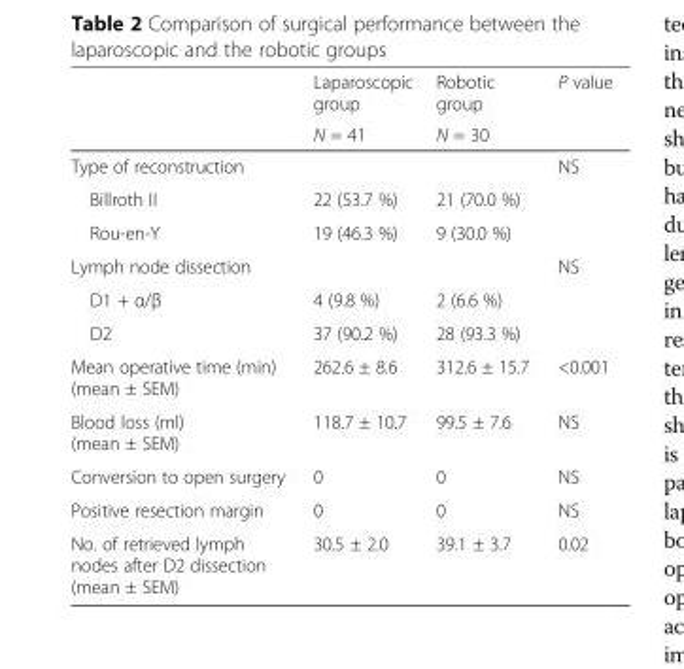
<table><thead><tr><td rowspan="2"></td><td rowspan="2">Laparoscopic group N = 41</td><td rowspan="2">Robotic group N = 30</td><td rowspan="2">P value</td></tr><tr></tr></thead><tbody><tr><td>Type of reconstruction</td><td></td><td></td><td>NS</td></tr><tr><td>Billroth II</td><td>22 (53.7 %)</td><td>21 (70.0 %)</td><td rowspan="2"></td></tr><tr><td>Rou-en-Y</td><td>19 (46.3 %)</td><td>9 (30.0 %)</td></tr><tr><td>Lymph node dissection</td><td></td><td></td><td>NS</td></tr><tr><td>D1 + α/β</td><td>4 (9.8 %)</td><td>2 (6.6 %)</td><td rowspan="2"></td></tr><tr><td>D2</td><td>37 (90.2 %)</td><td>28 (93.3 %)</td></tr><tr><td>Mean operative time (min) (mean ± SEM)</td><td>262.6 ± 8.6</td><td>312.6 ± 15.7</td><td>&lt;0.001</td></tr><tr><td>Blood loss (ml) (mean ± SEM)</td><td>118.7 ± 10.7</td><td>99.5 ± 7.6</td><td>NS</td></tr><tr><td>Conversion to open surgery</td><td>0</td><td>0</td><td>NS</td></tr><tr><td>Positive resection margin</td><td>0</td><td>0</td><td>NS</td></tr><tr><td>No. of retrieved lymph nodes after D2 dissection (mean ± SEM)</td><td>30.5 ± 2.0</td><td>39.1 ± 3.7</td><td>0.02</td></tr></tbody></table>